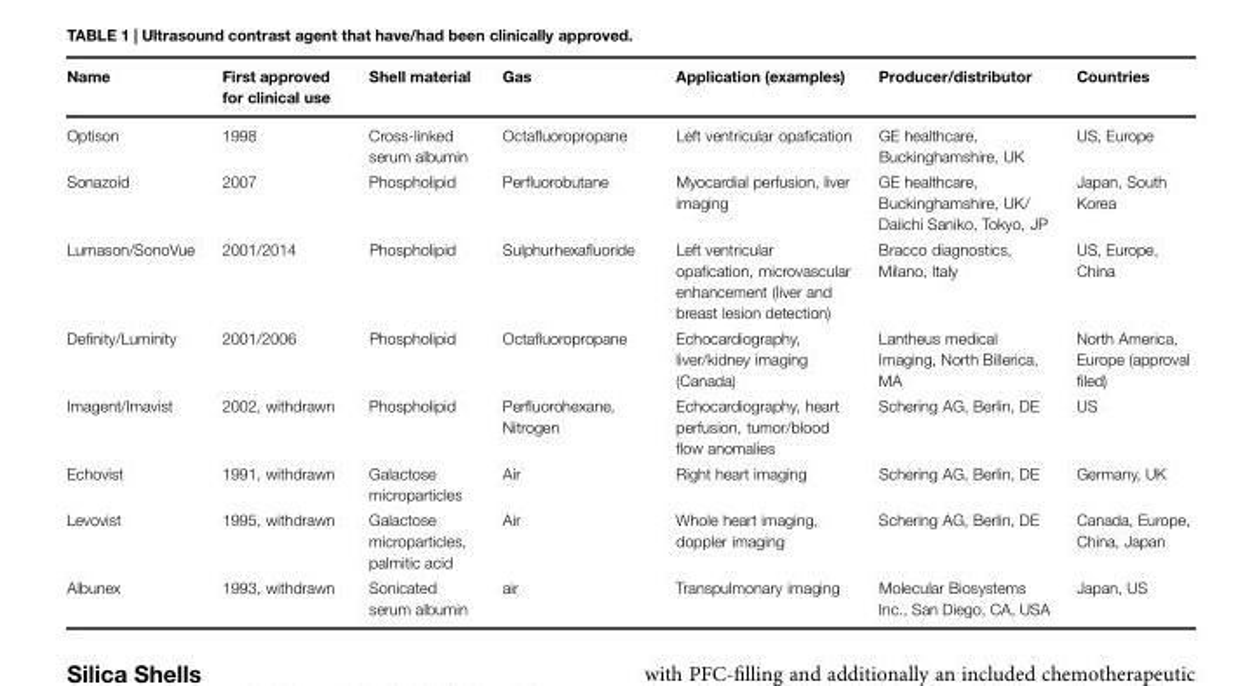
<table><thead><tr><td>Name</td><td>First approved for clinical use</td><td>Shell material</td><td>Gas</td><td>Application (examples)</td><td>Producer/distributor</td><td>Countries</td></tr></thead><tbody><tr><td>Optison</td><td>1998</td><td>Cross-linked serum albumin</td><td>Octafluoropropane</td><td>Left ventricular opafication</td><td>GE healthcare, Buckinghamshire, UK</td><td>US, Europe</td></tr><tr><td>Sonazoid</td><td>2007</td><td>Phospholipid</td><td>Perfluorobutane</td><td>Myocardial perfusion, liver imaging</td><td>GE healthcare, Buckinghamshire, UK/ Daiichi Saniko, Tokyo, JP</td><td>Japan, South Korea</td></tr><tr><td>Lumason/SonoVue</td><td>2001/2014</td><td>Phospholipid</td><td>Sulphurhexafluoride</td><td>Left ventricular opafication, microvascular enhancement (liver and breast lesion detection)</td><td>Bracco diagnostics, Milano, Italy</td><td>US, Europe, China</td></tr><tr><td>Definity/Luminity</td><td>2001/2006</td><td>Phospholipid</td><td>Octafluoropropane</td><td>Echocardiography, liver/kidney imaging (Canada)</td><td>Lantheus medical Imaging, North Billerica, MA</td><td>North America, Europe (approval filed)</td></tr><tr><td>Imagent/Imavist</td><td>2002, withdrawn</td><td>Phospholipid</td><td>Perfluorohexane, Nitrogen</td><td>Echocardiography, heart perfusion, tumor/blood flow anomalies</td><td>Schering AG, Berlin, DE</td><td>US</td></tr><tr><td>Echovist</td><td>1991, withdrawn</td><td>Galactose microparticles</td><td>Air</td><td>Right heart imaging</td><td>Schering AG, Berlin, DE</td><td>Germany, UK</td></tr><tr><td>Levovist</td><td>1995, withdrawn</td><td>Galactose microparticles, palmitic acid</td><td>Air</td><td>Whole heart imaging, doppler imaging</td><td>Schering AG, Berlin, DE</td><td>Canada, Europe, China, Japan</td></tr><tr><td>Albunex</td><td>1993, withdrawn</td><td>Sonicated serum albumin</td><td>air</td><td>Transpulmonary imaging</td><td>Molecular Biosystems Inc., San Diego, CA, USA</td><td>Japan, US</td></tr></tbody></table>